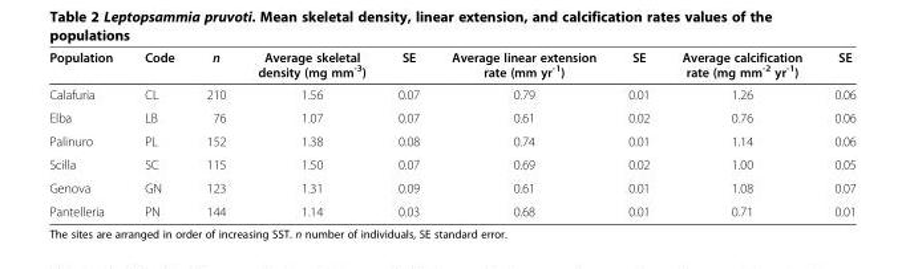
<table><thead><tr><td>Population</td><td>Code</td><td>n</td><td>Average skeletal density (mg mm<sup>-3</sup>)</td><td>SE</td><td>Average linear extension rate (mm yr<sup>-1</sup>)</td><td>SE</td><td>Average calcification rate (mg mm<sup>-2</sup> yr<sup>-1</sup>)</td><td>SE</td></tr></thead><tbody><tr><td>Calafuria</td><td>CL</td><td>210</td><td>1.56</td><td>0.07</td><td>0.79</td><td>0.01</td><td>1.26</td><td>0.06</td></tr><tr><td>Elba</td><td>LB</td><td>76</td><td>1.07</td><td>0.07</td><td>0.61</td><td>0.02</td><td>0.76</td><td>0.06</td></tr><tr><td>Palinuro</td><td>PL</td><td>152</td><td>1.38</td><td>0.08</td><td>0.74</td><td>0.01</td><td>1.14</td><td>0.06</td></tr><tr><td>Scilla</td><td>SC</td><td>115</td><td>1.50</td><td>0.07</td><td>0.69</td><td>0.02</td><td>1.00</td><td>0.05</td></tr><tr><td>Genova</td><td>GN</td><td>123</td><td>1.31</td><td>0.09</td><td>0.61</td><td>0.01</td><td>1.08</td><td>0.07</td></tr><tr><td>Pantelleria</td><td>PN</td><td>144</td><td>1.14</td><td>0.03</td><td>0.68</td><td>0.01</td><td>0.71</td><td>0.01</td></tr></tbody></table>